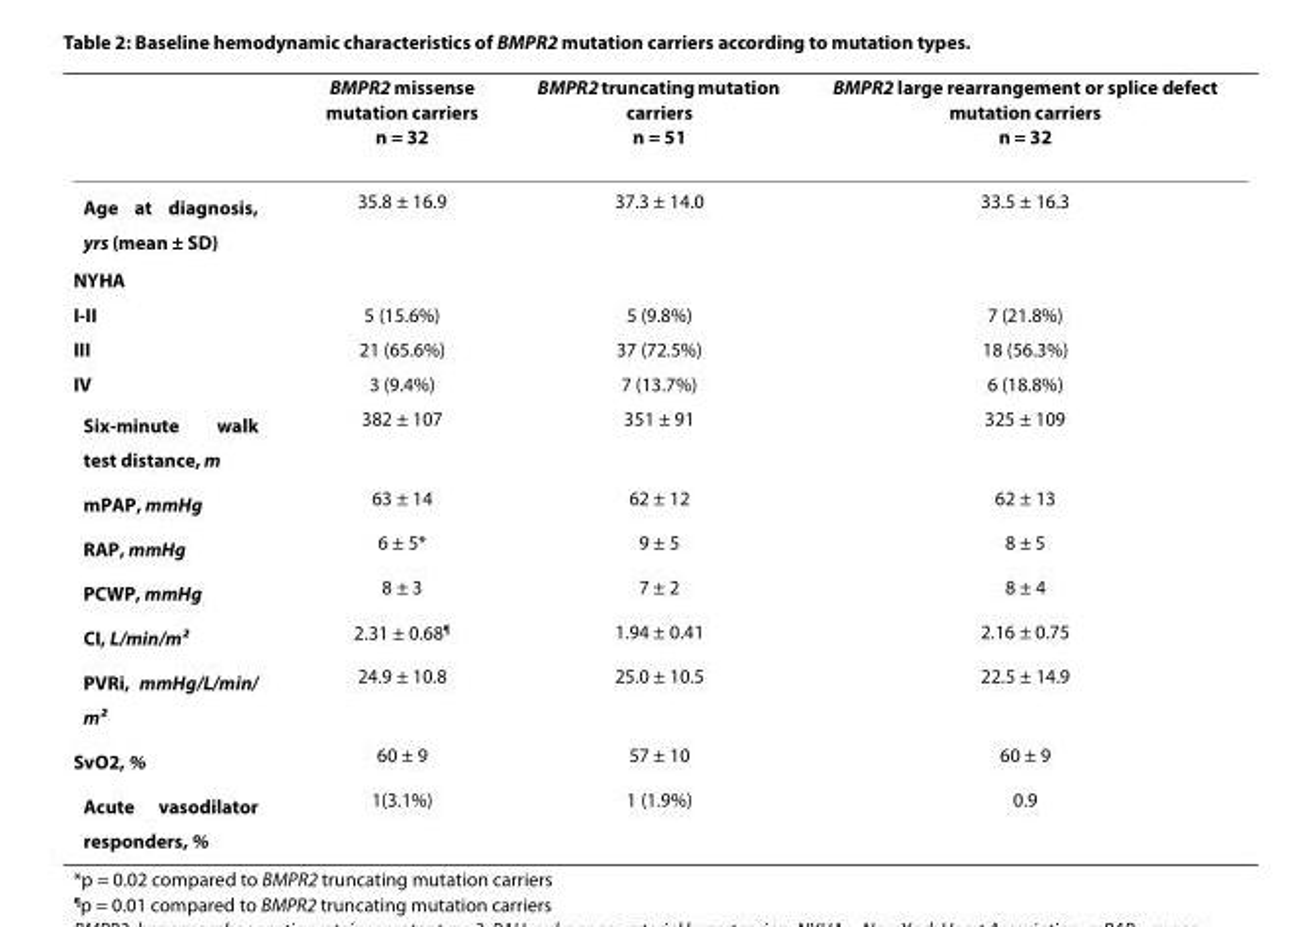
<table><thead><tr><td></td><td>BMPR2 missense mutation carriers n = 32</td><td>BMPR2 truncating mutation carriers n = 51</td><td>BMPR2 large rearrangement or splice defect mutation carriers n = 32</td></tr></thead><tbody><tr><td>Age at diagnosis, yrs (mean ± SD)</td><td>35.8 ± 16.9</td><td>37.3 ± 14.0</td><td>33.5 ± 16.3</td></tr><tr><td colspan="4">NYHA</td></tr><tr><td>I-II</td><td>5 (15.6%)</td><td>5 (9.8%)</td><td>7 (21.8%)</td></tr><tr><td>III</td><td>21 (65.6%)</td><td>37 (72.5%)</td><td>18 (56.3%)</td></tr><tr><td>IV</td><td>3 (9.4%)</td><td>7 (13.7%)</td><td>6 (18.8%)</td></tr><tr><td>Six-minute walk test distance, m</td><td>382 ± 107</td><td>351 ± 91</td><td>325 ± 109</td></tr><tr><td>mPAP, mmHg</td><td>63 ± 14</td><td>62 ± 12</td><td>62 ± 13</td></tr><tr><td>RAP, mmHg</td><td>6 ± 5*</td><td>9 ± 5</td><td>8 ± 5</td></tr><tr><td>PCWP, mmHg</td><td>8 ± 3</td><td>7 ± 2</td><td>8 ± 4</td></tr><tr><td>CI, L/min/m<sup>2</sup></td><td>2.31 ± 0.68<sup>¶</sup></td><td>1.94 ± 0.41</td><td>2.16 ± 0.75</td></tr><tr><td>PVRi, mmHg/L/min/ m<sup>2</sup></td><td>24.9 ± 10.8</td><td>25.0 ± 10.5</td><td>22.5 ± 14.9</td></tr><tr><td>SvO<sub>2,</sub> %</td><td>60 ± 9</td><td>57 ± 10</td><td>60 ± 9</td></tr><tr><td>Acute vasodilator responders, %</td><td>1(3.1%)</td><td>1 (1.9%)</td><td>0.9</td></tr></tbody></table>